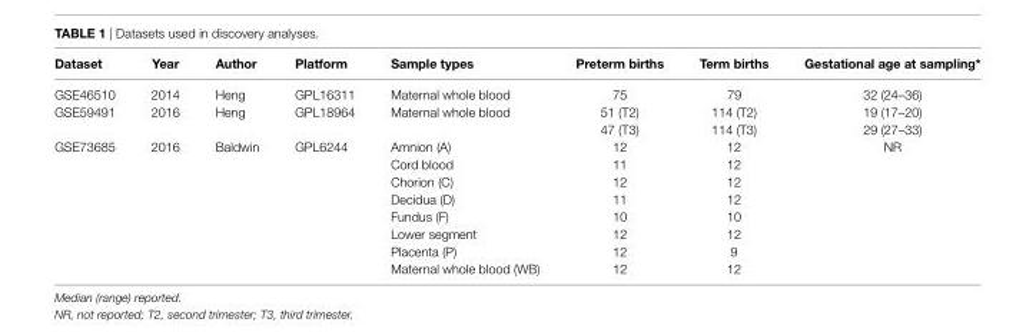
<table><thead><tr><td>Dataset</td><td>year</td><td>author</td><td>Platform</td><td>Sample types</td><td>Preterm births</td><td>term births</td><td>Gestational age at sampling*</td></tr></thead><tbody><tr><td>GSE46510</td><td>2014</td><td>Heng</td><td>GPL16311</td><td>Maternal whole blood</td><td>75</td><td>79</td><td>32 (24–36)</td></tr><tr><td>GSE59491</td><td>2016</td><td>Heng</td><td>GPL18964</td><td>Maternal whole blood</td><td>51 (T2) 47 (T3)</td><td>114 (T2) 114 (T3)</td><td>19 (17–20) 29 (27–33)</td></tr><tr><td rowspan="8">GSE73685</td><td rowspan="8">2016</td><td rowspan="8">Baldwin</td><td rowspan="8">GPL6244</td><td>Amnion (A)</td><td>12</td><td>12</td><td rowspan="8">NR</td></tr><tr><td>Cord blood</td><td>11</td><td>12</td></tr><tr><td>Chorion (C)</td><td>12</td><td>12</td></tr><tr><td>Decidua (D)</td><td>11</td><td>12</td></tr><tr><td>Fundus (F)</td><td>10</td><td>10</td></tr><tr><td>Lower segment</td><td>12</td><td>12</td></tr><tr><td>Placenta (P)</td><td>12</td><td>9</td></tr><tr><td>Maternal whole blood (WB)</td><td>12</td><td>12</td></tr></tbody></table>